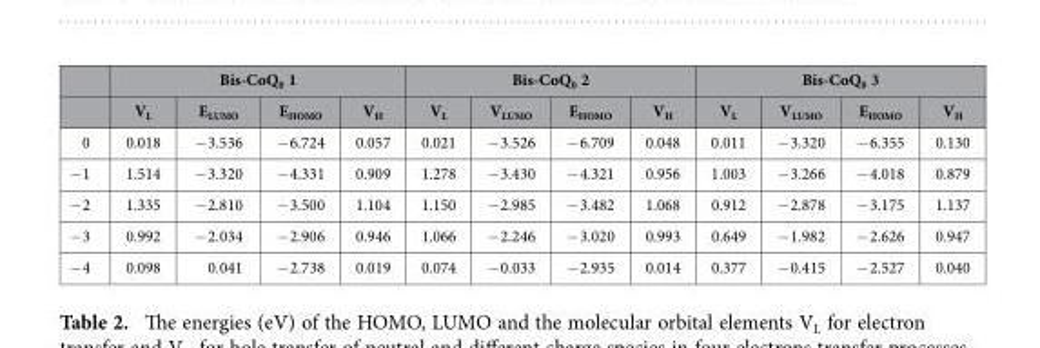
<table><thead><tr><td rowspan="2"></td><td colspan="4">Bis-CoQ<sub>0</sub> 1</td><td colspan="4">Bis-CoQ<sub>0</sub> 2</td><td colspan="4">Bis-CoQ<sub>0</sub> 3</td></tr><tr><td>V<sub>L</sub></td><td>E<sub>LUMO</sub></td><td>E<sub>HOMO</sub></td><td>V<sub>H</sub></td><td>V<sub>L</sub></td><td>V<sub>LUMO</sub></td><td>E<sub>HOMO</sub></td><td>V<sub>H</sub></td><td>V<sub>L</sub></td><td>V<sub>LUMO</sub></td><td>E<sub>HOMO</sub></td><td>V<sub>H</sub></td></tr></thead><tbody><tr><td>0</td><td>0.018</td><td>− 3.536</td><td>− 6.724</td><td>0.057</td><td>0.021</td><td>− 3.526</td><td>− 6.709</td><td>0.048</td><td>0.011</td><td>− 3.320</td><td>− 6.355</td><td>0.130</td></tr><tr><td>− 1</td><td>1.514</td><td>− 3.320</td><td>− 4.331</td><td>0.909</td><td>1.278</td><td>− 3.430</td><td>− 4.321</td><td>0.956</td><td>1.003</td><td>− 3.266</td><td>− 4.018</td><td>0.879</td></tr><tr><td>− 2</td><td>1.335</td><td>− 2.810</td><td>− 3.500</td><td>1.104</td><td>1.150</td><td>− 2.985</td><td>− 3.482</td><td>1.068</td><td>0.912</td><td>− 2.878</td><td>− 3.175</td><td>1.137</td></tr><tr><td>− 3</td><td>0.992</td><td>− 2.034</td><td>− 2.906</td><td>0.946</td><td>1.066</td><td>− 2.246</td><td>− 3.020</td><td>0.993</td><td>0.649</td><td>− 1.982</td><td>− 2.626</td><td>0.947</td></tr><tr><td>− 4</td><td>0.098</td><td>0.041</td><td>− 2.738</td><td>0.019</td><td>0.074</td><td>− 0.033</td><td>− 2.935</td><td>0.014</td><td>0.377</td><td>− 0.415</td><td>− 2.527</td><td>0.040</td></tr></tbody></table>